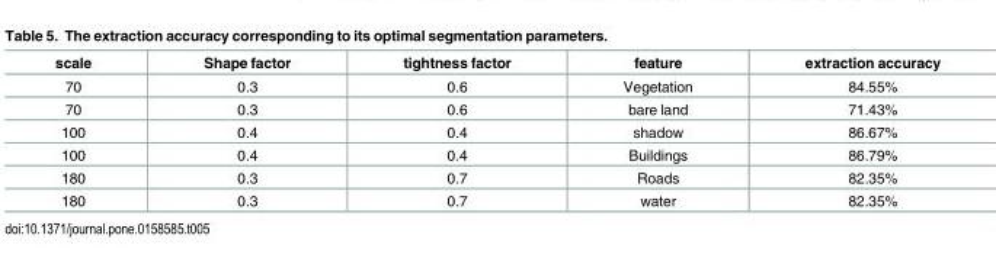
<table><thead><tr><td>scale</td><td>Shape factor</td><td>tightness factor</td><td>feature</td><td>extraction accuracy</td></tr></thead><tbody><tr><td>70</td><td>0.3</td><td>0.6</td><td>Vegetation</td><td>84.55%</td></tr><tr><td>70</td><td>0.3</td><td>0.6</td><td>bare land</td><td>71.43%</td></tr><tr><td>100</td><td>0.4</td><td>0.4</td><td>shadow</td><td>86.67%</td></tr><tr><td>100</td><td>0.4</td><td>0.4</td><td>Buildings</td><td>86.79%</td></tr><tr><td>180</td><td>0.3</td><td>0.7</td><td>Roads</td><td>82.35%</td></tr><tr><td>180</td><td>0.3</td><td>0.7</td><td>water</td><td>82.35%</td></tr></tbody></table>